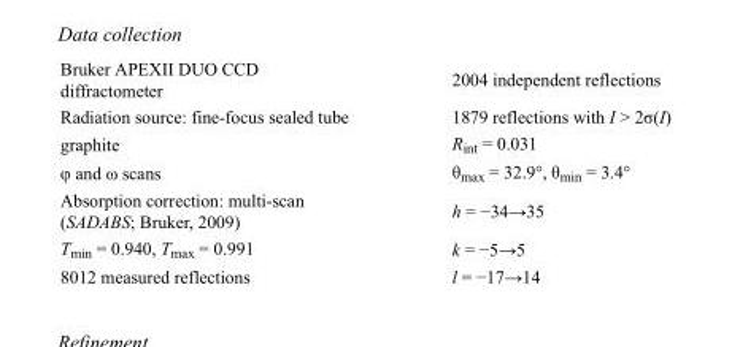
<table><tbody><tr><td>Bruker APEXII DUO CCD diffractometer</td><td>2004 independent reflections</td></tr><tr><td>Radiation source: fine-focus sealed tube</td><td>1879 reflections with I &gt; 2σ(I)</td></tr><tr><td>graphite</td><td>R<sub>int</sub> = 0.031</td></tr><tr><td>φ and ω scans</td><td>θ<sub>max</sub> = 32.9°, θ<sub>min</sub> = 3.4°</td></tr><tr><td>Absorption correction: multi-scan (SADABS; Bruker, 2009)</td><td>h = −34→35</td></tr><tr><td>T<sub>min</sub> = 0.940, T<sub>max</sub> = 0.991</td><td>k = −5→5</td></tr><tr><td>8012 measured reflections</td><td>l = −17→14</td></tr></tbody></table>